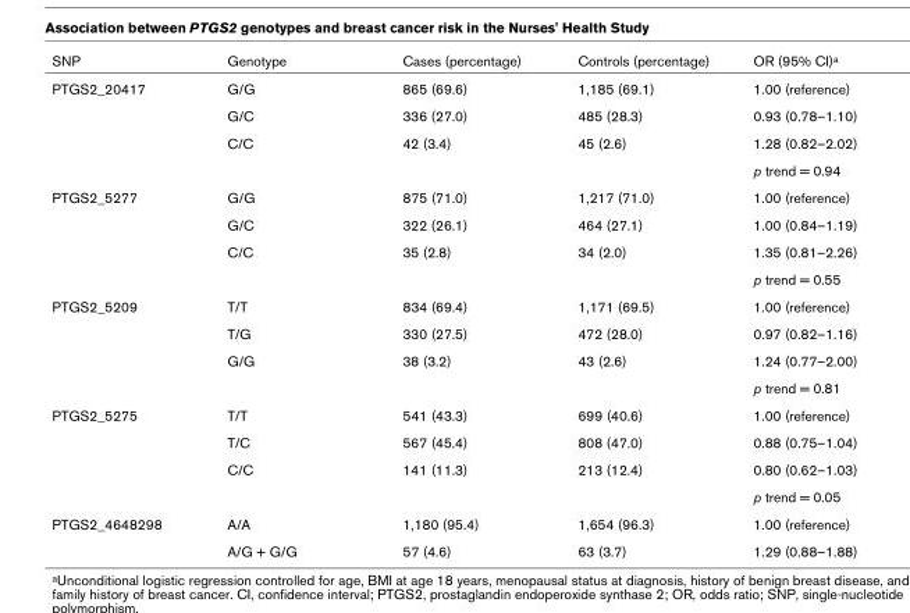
<table><thead><tr><td>SNP</td><td>Genotype</td><td>Cases (percentage)</td><td>Controls (percentage)</td><td>OR (95% CI)a</td></tr></thead><tbody><tr><td rowspan="4">PTGS2_20417</td><td>G/G</td><td>865 (69.6)</td><td>1,185 (69.1)</td><td>1.00 (reference)</td></tr><tr><td>G/C</td><td>336 (27.0)</td><td>485 (28.3)</td><td>0.93 (0.78–1.10)</td></tr><tr><td>C/C</td><td>42 (3.4)</td><td>45 (2.6)</td><td>1.28 (0.82–2.02)</td></tr><tr><td></td><td></td><td></td><td>p trend = 0.94</td></tr><tr><td rowspan="4">PTGS2_5277</td><td>G/G</td><td>875 (71.0)</td><td>1,217 (71.0)</td><td>1.00 (reference)</td></tr><tr><td>G/C</td><td>322 (26.1)</td><td>464 (27.1)</td><td>1.00 (0.84–1.19)</td></tr><tr><td>C/C</td><td>35 (2.8)</td><td>34 (2.0)</td><td>1.35 (0.81–2.26)</td></tr><tr><td></td><td></td><td></td><td>p trend = 0.55</td></tr><tr><td rowspan="4">PTGS2_5209</td><td>T/T</td><td>834 (69.4)</td><td>1,171 (69.5)</td><td>1.00 (reference)</td></tr><tr><td>T/G</td><td>330 (27.5)</td><td>472 (28.0)</td><td>0.97 (0.82–1.16)</td></tr><tr><td>G/G</td><td>38 (3.2)</td><td>43 (2.6)</td><td>1.24 (0.77–2.00)</td></tr><tr><td></td><td></td><td></td><td>p trend = 0.81</td></tr><tr><td rowspan="4">PTGS2_5275</td><td>T/T</td><td>541 (43.3)</td><td>699 (40.6)</td><td>1.00 (reference)</td></tr><tr><td>T/C</td><td>567 (45.4)</td><td>808 (47.0)</td><td>0.88 (0.75–1.04)</td></tr><tr><td>C/C</td><td>141 (11.3)</td><td>213 (12.4)</td><td>0.80 (0.62–1.03)</td></tr><tr><td></td><td></td><td></td><td>p trend = 0.05</td></tr><tr><td rowspan="2">PTGS2_4648298</td><td>A/A</td><td>1,180 (95.4)</td><td>1,654 (96.3)</td><td>1.00 (reference)</td></tr><tr><td>A/G + G/G</td><td>57 (4.6)</td><td>63 (3.7)</td><td>1.29 (0.88–1.88)</td></tr></tbody></table>